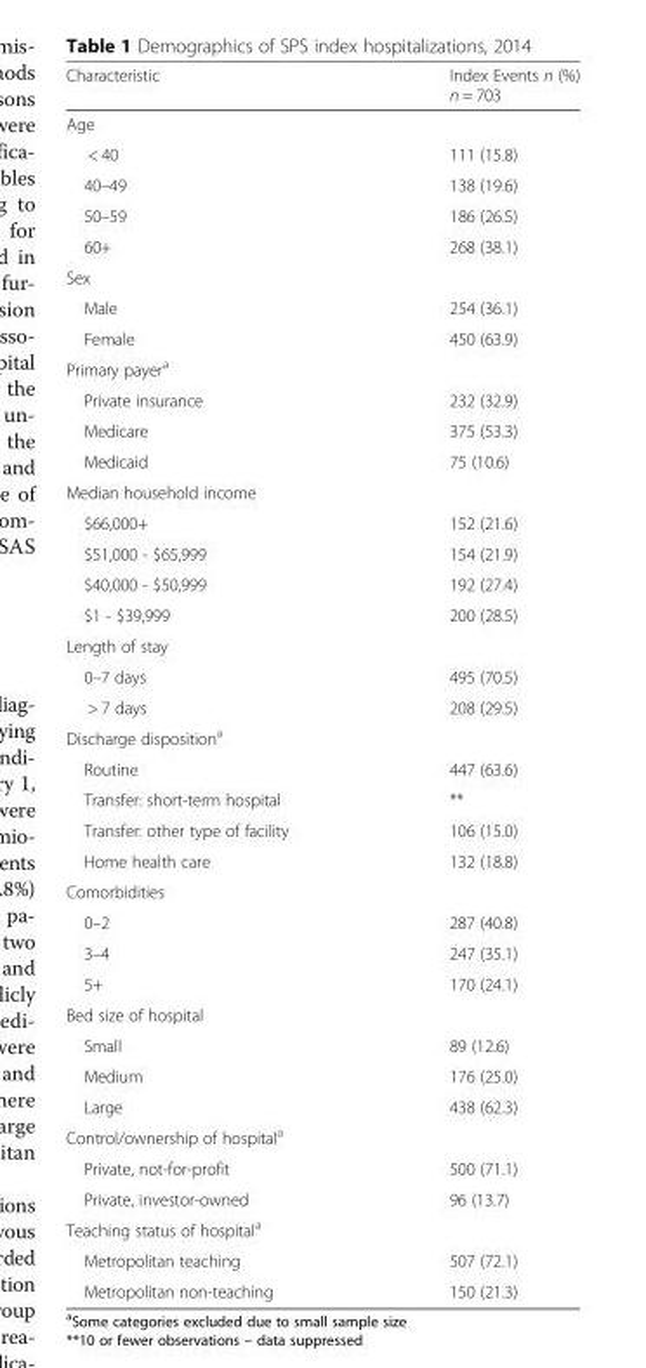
<table><thead><tr><td>Characteristic</td><td>Index Events n (%) n = 703</td></tr></thead><tbody><tr><td colspan="2">Age</td></tr><tr><td>&lt; 40</td><td>111 (15.8)</td></tr><tr><td>40–49</td><td>138 (19.6)</td></tr><tr><td>50–59</td><td>186 (26.5)</td></tr><tr><td>60+</td><td>268 (38.1)</td></tr><tr><td colspan="2">Sex</td></tr><tr><td>Male</td><td>254 (36.1)</td></tr><tr><td>Female</td><td>450 (63.9)</td></tr><tr><td colspan="2">Primary payer<sup>a</sup></td></tr><tr><td>Private insurance</td><td>232 (32.9)</td></tr><tr><td>Medicare</td><td>375 (53.3)</td></tr><tr><td>Medicaid</td><td>75 (10.6)</td></tr><tr><td colspan="2">Median household income</td></tr><tr><td>$66,000+</td><td>152 (21.6)</td></tr><tr><td>$51,000 - $65,999</td><td>154 (21.9)</td></tr><tr><td>$40,000 - $50,999</td><td>192 (27.4)</td></tr><tr><td>$1 - $39,999</td><td>200 (28.5)</td></tr><tr><td colspan="2">Length of stay</td></tr><tr><td>0–7 days</td><td>495 (70.5)</td></tr><tr><td>&gt; 7 days</td><td>208 (29.5)</td></tr><tr><td colspan="2">Discharge disposition<sup>a</sup></td></tr><tr><td>Routine</td><td>447 (63.6)</td></tr><tr><td>Transfer: short-term hospital</td><td>**</td></tr><tr><td>Transfer: other type of facility</td><td>106 (15.0)</td></tr><tr><td>Home health care</td><td>132 (18.8)</td></tr><tr><td colspan="2">Comorbidities</td></tr><tr><td>0–2</td><td>287 (40.8)</td></tr><tr><td>3–4</td><td>247 (35.1)</td></tr><tr><td>5+</td><td>170 (24.1)</td></tr><tr><td colspan="2">Bed size of hospital</td></tr><tr><td>Small</td><td>89 (12.6)</td></tr><tr><td>Medium</td><td>176 (25.0)</td></tr><tr><td>Large</td><td>438 (62.3)</td></tr><tr><td colspan="2">Control/ownership of hospital<sup>a</sup></td></tr><tr><td>Private, not-for-profit</td><td>500 (71.1)</td></tr><tr><td>Private, investor-owned</td><td>96 (13.7)</td></tr><tr><td colspan="2">Teaching status of hospital<sup>a</sup></td></tr><tr><td>Metropolitan teaching</td><td>507 (72.1)</td></tr><tr><td>Metropolitan non-teaching</td><td>150 (21.3)</td></tr></tbody></table>